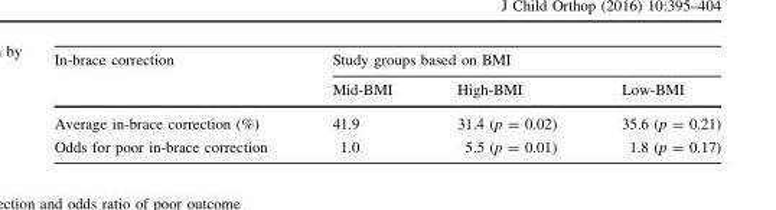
<table><thead><tr><td rowspan="2">In-brace correction</td><td colspan="3">Study groups based on BMI</td></tr><tr><td>Mid-BMI</td><td>High-BMI</td><td>Low-BMI</td></tr></thead><tbody><tr><td>Average in-brace correction (%)</td><td>41.9</td><td>31.4 (p = 0.02)</td><td>35.6 (p = 0.21)</td></tr><tr><td>Odds for poor in-brace correction</td><td>1.0</td><td>5.5 (p = 0.01)</td><td>1.8 (p = 0.17)</td></tr></tbody></table>